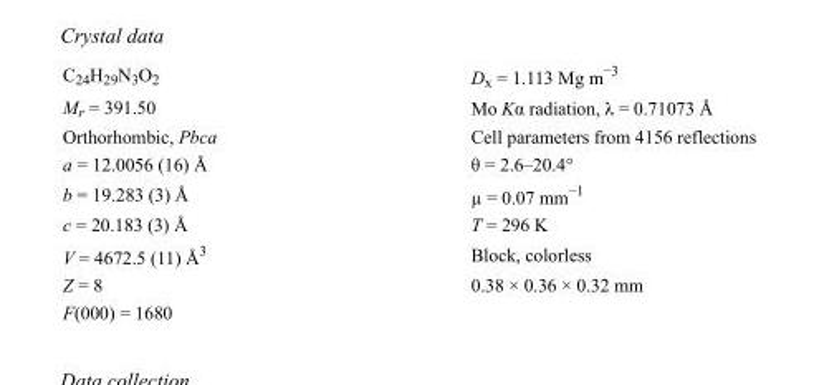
<table><tbody><tr><td>C<sub>24</sub>H<sub>29</sub>N<sub>3</sub>O<sub>2</sub></td><td>D<sub>x</sub> = 1.113 Mg m<sup>−3</sup></td></tr><tr><td>M<sub>r</sub> = 391.50</td><td>Mo Kα radiation, λ = 0.71073 Å</td></tr><tr><td>Orthorhombic, Pbca</td><td>Cell parameters from 4156 reflections</td></tr><tr><td>a = 12.0056 (16) Å</td><td>θ = 2.6–20.4°</td></tr><tr><td>b = 19.283 (3) Å</td><td>µ = 0.07 mm<sup>−1</sup></td></tr><tr><td>c = 20.183 (3) Å</td><td>T = 296 K</td></tr><tr><td>V = 4672.5 (11) Å<sup>3</sup></td><td>Block, colorless</td></tr><tr><td>Z = 8</td><td>0.38 × 0.36 × 0.32 mm</td></tr><tr><td>F(000) = 1680</td><td></td></tr></tbody></table>